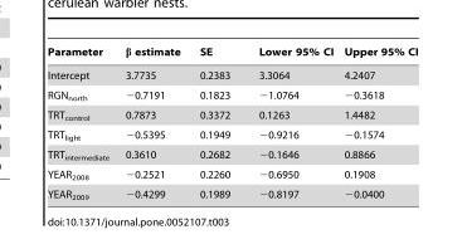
<table><thead><tr><td>Parameter</td><td>β estimate</td><td>SE</td><td>Lower 95% CI</td><td>Upper 95% CI</td></tr></thead><tbody><tr><td>Intercept</td><td>3.7735</td><td>0.2383</td><td>3.3064</td><td>4.2407</td></tr><tr><td>RGN<sub>north</sub></td><td>−0.7191</td><td>0.1823</td><td>−1.0764</td><td>−0.3618</td></tr><tr><td>TRT<sub>control</sub></td><td>0.7873</td><td>0.3372</td><td>0.1263</td><td>1.4482</td></tr><tr><td>TRT<sub>light</sub></td><td>−0.5395</td><td>0.1949</td><td>−0.9216</td><td>−0.1574</td></tr><tr><td>TRT<sub>intermediate</sub></td><td>0.3610</td><td>0.2682</td><td>−0.1646</td><td>0.8866</td></tr><tr><td>YEAR<sub>2008</sub></td><td>−0.2521</td><td>0.2260</td><td>−0.6950</td><td>0.1908</td></tr><tr><td>YEAR<sub>2009</sub></td><td>−0.4299</td><td>0.1989</td><td>−0.8197</td><td>−0.0400</td></tr></tbody></table>